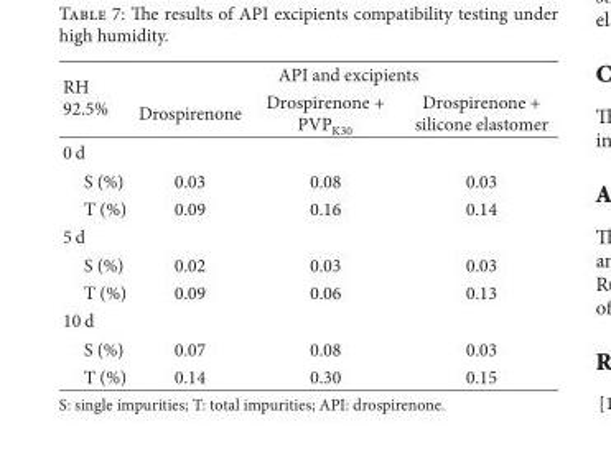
<table><thead><tr><td rowspan="2">RH 92.5%</td><td colspan="3">API and excipients</td></tr><tr><td>Drospirenone</td><td>Drospirenone + PVP<sub>K30</sub></td><td>Drospirenone + silicone elastomer</td></tr></thead><tbody><tr><td colspan="4">0 d</td></tr><tr><td>S (%)</td><td>0.03</td><td>0.08</td><td>0.03</td></tr><tr><td>T (%)</td><td>0.09</td><td>0.16</td><td>0.14</td></tr><tr><td colspan="4">5 d</td></tr><tr><td>S (%)</td><td>0.02</td><td>0.03</td><td>0.03</td></tr><tr><td>T (%)</td><td>0.09</td><td>0.06</td><td>0.13</td></tr><tr><td colspan="4">10 d</td></tr><tr><td>S (%)</td><td>0.07</td><td>0.08</td><td>0.03</td></tr><tr><td>T (%)</td><td>0.14</td><td>0.30</td><td>0.15</td></tr></tbody></table>